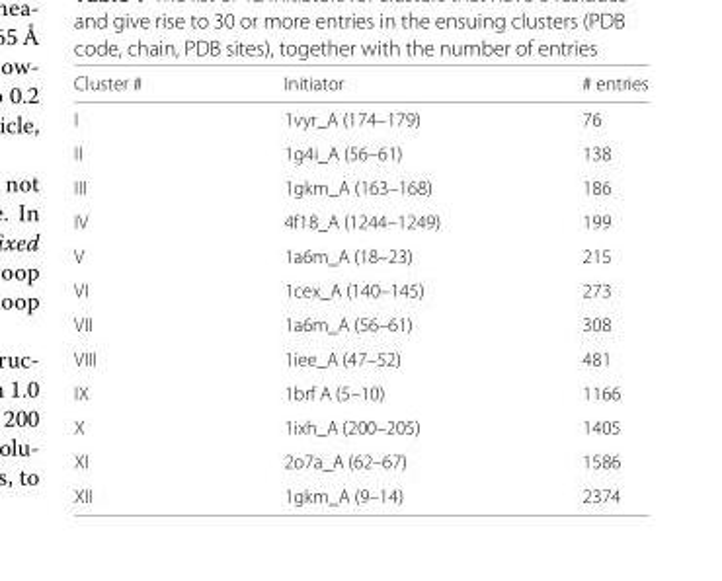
<table><thead><tr><td>Cluster #</td><td>Initiator</td><td># entries</td></tr></thead><tbody><tr><td>I</td><td>1vyr_A (174–179)</td><td>76</td></tr><tr><td>II</td><td>1g4i_A (56–61)</td><td>138</td></tr><tr><td>III</td><td>1gkm_A (163–168)</td><td>186</td></tr><tr><td>IV</td><td>4f18_A (1244–1249)</td><td>199</td></tr><tr><td>V</td><td>1a6m_A (18–23)</td><td>215</td></tr><tr><td>VI</td><td>1cex_A (140–145)</td><td>273</td></tr><tr><td>VII</td><td>1a6m_A (56–61)</td><td>308</td></tr><tr><td>VIII</td><td>1iee_A (47–52)</td><td>481</td></tr><tr><td>IX</td><td>1brf A (5–10)</td><td>1166</td></tr><tr><td>X</td><td>1ixh_A (200–205)</td><td>1405</td></tr><tr><td>XI</td><td>2o7a_A (62–67)</td><td>1586</td></tr><tr><td>XII</td><td>1gkm_A (9–14)</td><td>2374</td></tr></tbody></table>